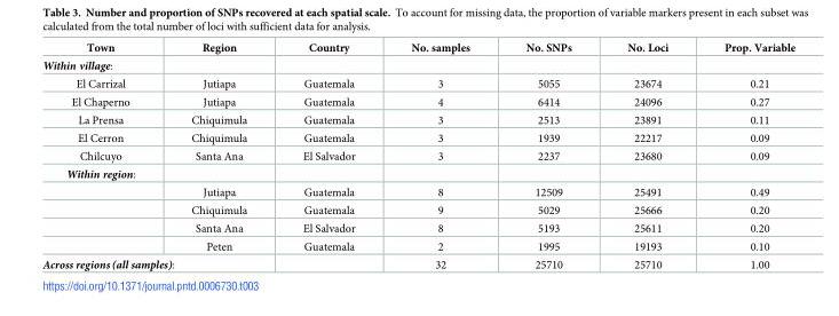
<table><thead><tr><td>Town</td><td>Region</td><td>Country</td><td>No. samples</td><td>No. SNPs</td><td>No. Loci</td><td>Prop. Variable</td></tr></thead><tbody><tr><td colspan="7">Within village:</td></tr><tr><td>El Carrizal</td><td>Jutiapa</td><td>Guatemala</td><td>3</td><td>5055</td><td>23674</td><td>0.21</td></tr><tr><td>El Chaperno</td><td>Jutiapa</td><td>Guatemala</td><td>4</td><td>6414</td><td>24096</td><td>0.27</td></tr><tr><td>La Prensa</td><td>Chiquimula</td><td>Guatemala</td><td>3</td><td>2513</td><td>23891</td><td>0.11</td></tr><tr><td>El Cerron</td><td>Chiquimula</td><td>Guatemala</td><td>3</td><td>1939</td><td>22217</td><td>0.09</td></tr><tr><td>Chilcuyo</td><td>Santa Ana</td><td>El Salvador</td><td>3</td><td>2237</td><td>23680</td><td>0.09</td></tr><tr><td colspan="7">Within region:</td></tr><tr><td></td><td>Jutiapa</td><td>Guatemala</td><td>8</td><td>12509</td><td>25491</td><td>0.49</td></tr><tr><td></td><td>Chiquimula</td><td>Guatemala</td><td>9</td><td>5029</td><td>25666</td><td>0.20</td></tr><tr><td></td><td>Santa Ana</td><td>El Salvador</td><td>8</td><td>5193</td><td>25611</td><td>0.20</td></tr><tr><td></td><td>Peten</td><td>Guatemala</td><td>2</td><td>1995</td><td>19193</td><td>0.10</td></tr><tr><td colspan="2">Across regions (all samples):</td><td></td><td>32</td><td>25710</td><td>25710</td><td>1.00</td></tr></tbody></table>